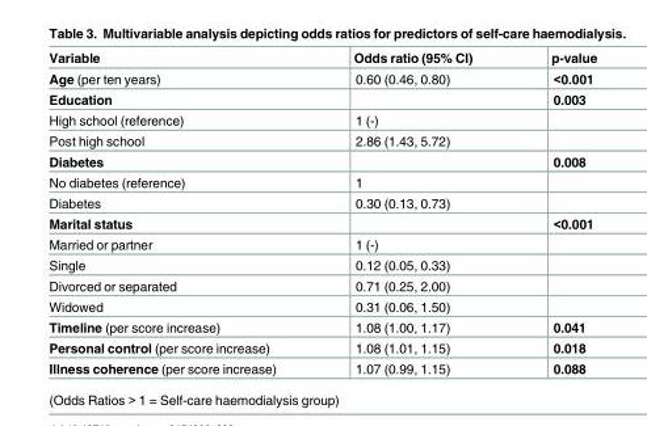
<table><thead><tr><td>Variable</td><td>Odds ratio (95% CI)</td><td>p-value</td></tr></thead><tbody><tr><td>Age (per ten years)</td><td>0.60 (0.46, 0.80)</td><td>&lt;0.001</td></tr><tr><td>Education</td><td></td><td>0.003</td></tr><tr><td>High school (reference)</td><td>1 (-)</td><td></td></tr><tr><td>Post high school</td><td>2.86 (1.43, 5.72)</td><td></td></tr><tr><td>Diabetes</td><td></td><td>0.008</td></tr><tr><td>No diabetes (reference)</td><td>1</td><td></td></tr><tr><td>Diabetes</td><td>0.30 (0.13, 0.73)</td><td></td></tr><tr><td>Marital status</td><td></td><td>&lt;0.001</td></tr><tr><td>Married or partner</td><td>1 (-)</td><td></td></tr><tr><td>Single</td><td>0.12 (0.05, 0.33)</td><td></td></tr><tr><td>Divorced or separated</td><td>0.71 (0.25, 2.00)</td><td></td></tr><tr><td>Widowed</td><td>0.31 (0.06, 1.50)</td><td></td></tr><tr><td>Timeline (per score increase)</td><td>1.08 (1.00, 1.17)</td><td>0.041</td></tr><tr><td>Personal control (per score increase)</td><td>1.08 (1.01, 1.15)</td><td>0.018</td></tr><tr><td>Illness coherence (per score increase)</td><td>1.07 (0.99, 1.15)</td><td>0.088</td></tr></tbody></table>